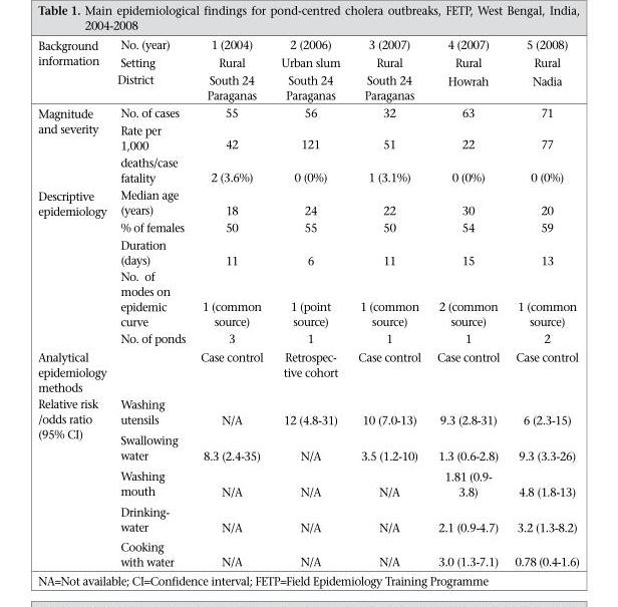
<table><thead><tr><td rowspan="3">Background information</td><td rowspan="3">No. (year) Setting District</td><td rowspan="3">1 (2004) Rural South 24 Paraganas</td><td rowspan="3">2 (2006) Urban slum South 24 Paraganas</td><td rowspan="3">3 (2007) Rural South 24 Paraganas</td><td rowspan="3">4 (2007) Rural Howrah</td><td rowspan="3">5 (2008) Rural Nadia</td></tr><tr></tr><tr></tr></thead><tbody><tr><td rowspan="3">Magnitude and severity</td><td>No. of cases</td><td>55</td><td>56</td><td>32</td><td>63</td><td>71</td></tr><tr><td>Rate per 1,000</td><td>42</td><td>121</td><td>51</td><td>22</td><td>77</td></tr><tr><td>deaths/case fatality</td><td>2 (3.6%)</td><td>0 (0%)</td><td>1 (3.1%)</td><td>0 (0%)</td><td>0 (0%)</td></tr><tr><td rowspan="5">Descriptive epidemiology</td><td>Median age (years)</td><td>18</td><td>24</td><td>22</td><td>30</td><td>20</td></tr><tr><td>% of females</td><td>50</td><td>55</td><td>50</td><td>54</td><td>59</td></tr><tr><td>Duration (days)</td><td>11</td><td>6</td><td>11</td><td>15</td><td>13</td></tr><tr><td>No. of modes on epidemic curve</td><td>1 (common source)</td><td>1 (point source)</td><td>1 (common source)</td><td>2 (common source)</td><td>1 (common source)</td></tr><tr><td>No. of ponds</td><td>3</td><td>1</td><td>1</td><td>1</td><td>2</td></tr><tr><td>Analytical epidemiology methods</td><td></td><td>Case control</td><td>Retrospec- tive cohort</td><td>Case control</td><td>Case control</td><td>Case control</td></tr><tr><td rowspan="5">Relative risk /odds ratio (95% CI)</td><td>Washing utensils</td><td>N/A</td><td>12 (4.8-31)</td><td>10 (7.0-13)</td><td>9.3 (2.8-31)</td><td>6 (2.3-15)</td></tr><tr><td>Swallowing water</td><td>8.3 (2.4-35)</td><td>N/A</td><td>3.5 (1.2-10)</td><td>1.3 (0.6-2.8)</td><td>9.3 (3.3-26)</td></tr><tr><td>Washing mouth</td><td>N/A</td><td>N/A</td><td>N/A</td><td>1.81 (0.9- 3.8)</td><td>4.8 (1.8-13)</td></tr><tr><td>Drinking- water</td><td>N/A</td><td>N/A</td><td>N/A</td><td>2.1 (0.9-4.7)</td><td>3.2 (1.3-8.2)</td></tr><tr><td>Cooking with water</td><td>N/A</td><td>N/A</td><td>N/A</td><td>3.0 (1.3-7.1)</td><td>0.78 (0.4-1.6)</td></tr></tbody></table>